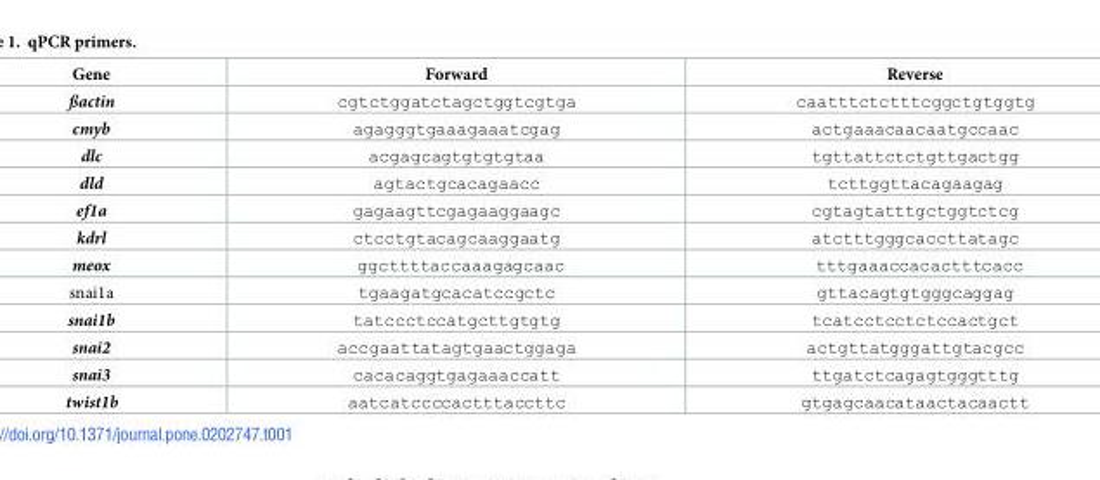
<table><thead><tr><td>Gene</td><td>Forward</td><td>Reverse</td></tr></thead><tbody><tr><td>ßactin</td><td>cgtctggatctagctggtcgtga</td><td>caatttctctttcggctgtggtg</td></tr><tr><td>cmyb</td><td>agagggtgaaagaaatcgag</td><td>actgaaacaacaatgccaac</td></tr><tr><td>dlc</td><td>acgagcagtgtgtgtaa</td><td>tgttattctctgttgactgg</td></tr><tr><td>dld</td><td>agtactgcacagaacc</td><td>tcttggttacagaagag</td></tr><tr><td>ef1a</td><td>gagaagttcgagaaggaagc</td><td>cgtagtatttgctggtctcg</td></tr><tr><td>kdrl</td><td>ctcctgtacagcaaggaatg</td><td>atctttgggcaccttatagc</td></tr><tr><td>meox</td><td>ggcttttaccaaagagcaac</td><td>tttgaaaccacactttcacc</td></tr><tr><td>snai1a</td><td>tgaagatgcacatccgctc</td><td>gttacagtgtgggcaggag</td></tr><tr><td>snai1b</td><td>tatccctccatgcttgtgtg</td><td>tcatcctcctctccactgct</td></tr><tr><td>snai2</td><td>accgaattatagtgaactggaga</td><td>actgttatgggattgtacgcc</td></tr><tr><td>snai3</td><td>cacacaggtgagaaaccatt</td><td>ttgatctcagagtgggtttg</td></tr><tr><td>twist1b</td><td>aatcatccccactttaccttc</td><td>gtgagcaacataactacaactt</td></tr></tbody></table>